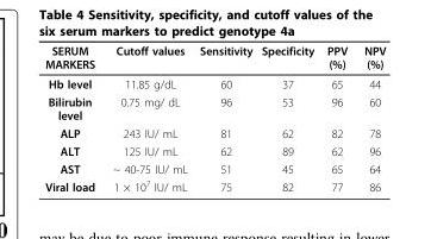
<table><thead><tr><td>SERUM MARKERS</td><td>Cutoff values</td><td>Sensitivity</td><td>Specificity</td><td>PPV (%)</td><td>NPV (%)</td></tr></thead><tbody><tr><td>Hb level</td><td>11.85 g/dL</td><td>60</td><td>37</td><td>65</td><td>44</td></tr><tr><td>Bilirubin level</td><td>0.75 mg/ dL</td><td>96</td><td>53</td><td>96</td><td>60</td></tr><tr><td>ALP</td><td>243 IU/ mL</td><td>81</td><td>62</td><td>82</td><td>78</td></tr><tr><td>ALT</td><td>125 IU/ mL</td><td>62</td><td>89</td><td>62</td><td>96</td></tr><tr><td>AST</td><td>~ 40-75 IU/ mL</td><td>51</td><td>45</td><td>65</td><td>64</td></tr><tr><td>Viral load</td><td>1 × 10<sup>7</sup> IU/ mL</td><td>75</td><td>82</td><td>77</td><td>86</td></tr></tbody></table>